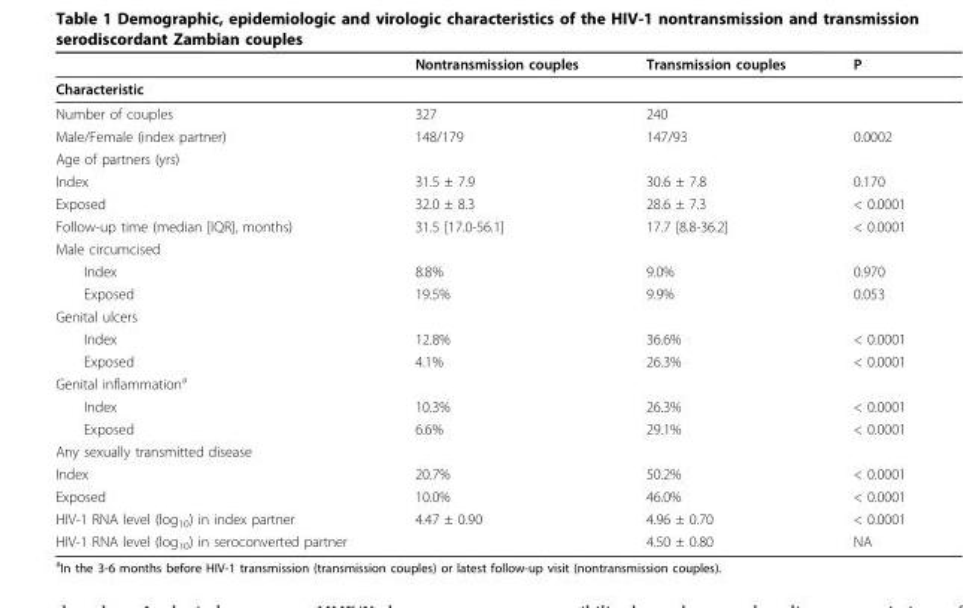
<table><thead><tr><td></td><td>Nontransmission couples</td><td>Transmission couples</td><td>P</td></tr></thead><tbody><tr><td colspan="4">Characteristic</td></tr><tr><td>Number of couples</td><td>327</td><td>240</td><td></td></tr><tr><td>Male/Female (index partner)</td><td>148/179</td><td>147/93</td><td>0.0002</td></tr><tr><td colspan="4">Age of partners (yrs)</td></tr><tr><td>Index</td><td>31.5 ± 7.9</td><td>30.6 ± 7.8</td><td>0.170</td></tr><tr><td>Exposed</td><td>32.0 ± 8.3</td><td>28.6 ± 7.3</td><td>&lt; 0.0001</td></tr><tr><td>Follow-up time (median [IQR], months)</td><td>31.5 [17.0-56.1]</td><td>17.7 [8.8-36.2]</td><td>&lt; 0.0001</td></tr><tr><td colspan="4">Male circumcised</td></tr><tr><td>Index</td><td>8.8%</td><td>9.0%</td><td>0.970</td></tr><tr><td>Exposed</td><td>19.5%</td><td>9.9%</td><td>0.053</td></tr><tr><td colspan="4">Genital ulcers</td></tr><tr><td>Index</td><td>12.8%</td><td>36.6%</td><td>&lt; 0.0001</td></tr><tr><td>Exposed</td><td>4.1%</td><td>26.3%</td><td>&lt; 0.0001</td></tr><tr><td colspan="4">Genital inflammation<sup>a</sup></td></tr><tr><td>Index</td><td>10.3%</td><td>26.3%</td><td>&lt; 0.0001</td></tr><tr><td>Exposed</td><td>6.6%</td><td>29.1%</td><td>&lt; 0.0001</td></tr><tr><td colspan="4">Any sexually transmitted disease</td></tr><tr><td>Index</td><td>20.7%</td><td>50.2%</td><td>&lt; 0.0001</td></tr><tr><td>Exposed</td><td>10.0%</td><td>46.0%</td><td>&lt; 0.0001</td></tr><tr><td>HIV-1 RNA level (log<sub>10</sub>) in index partner</td><td>4.47 ± 0.90</td><td>4.96 ± 0.70</td><td>&lt; 0.0001</td></tr><tr><td>HIV-1 RNA level (log<sub>10</sub>) in seroconverted partner</td><td></td><td>4.50 ± 0.80</td><td>NA</td></tr></tbody></table>